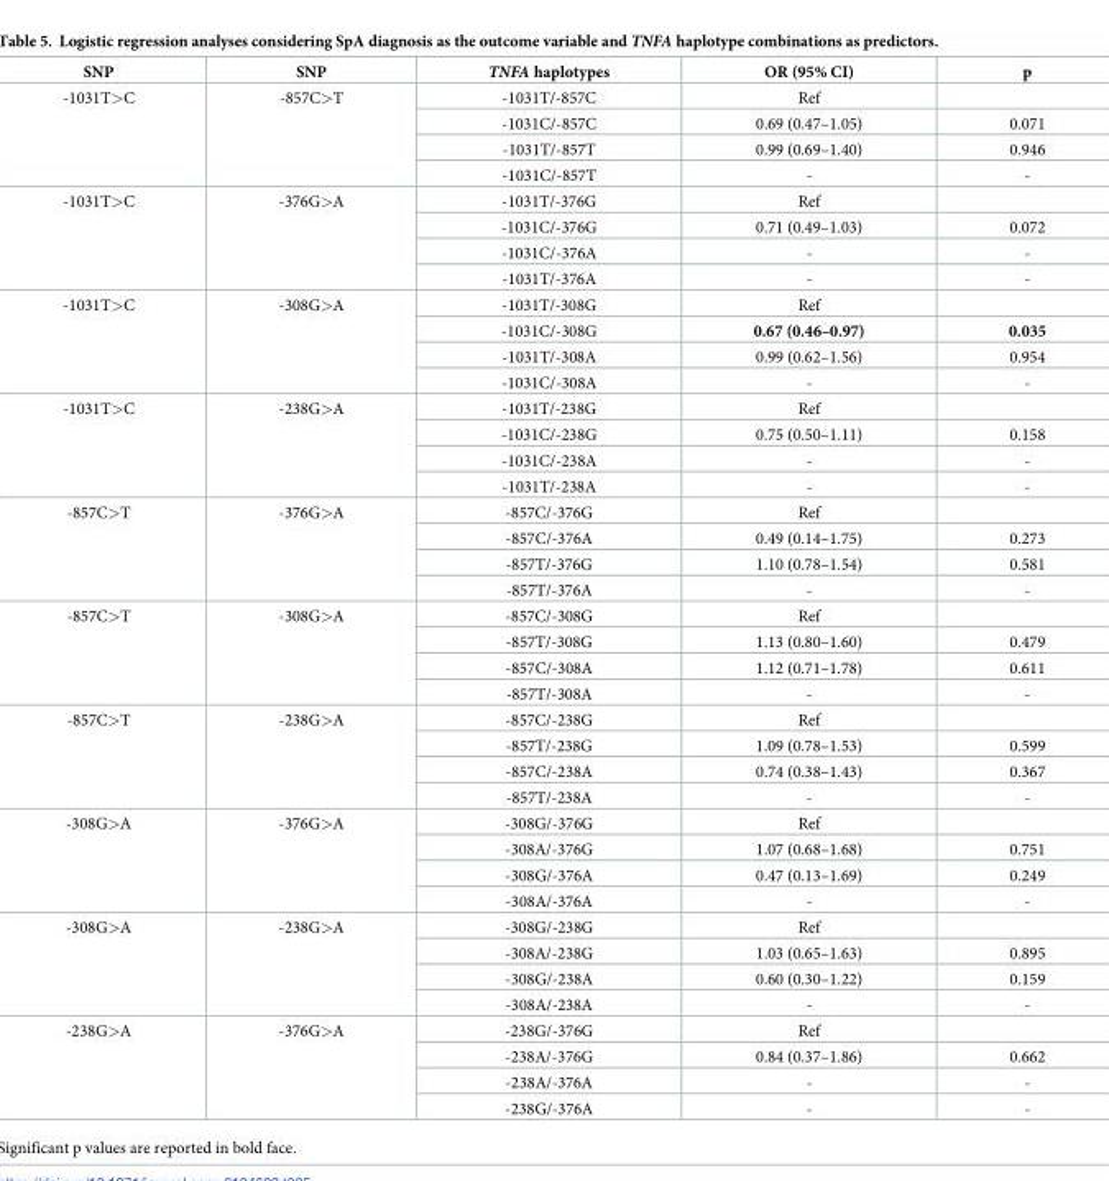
<table><thead><tr><td>SNP</td><td>SNP</td><td>TNFA haplotypes</td><td>OR (95% CI)</td><td>p</td></tr></thead><tbody><tr><td rowspan="4">-1031T&gt;C</td><td rowspan="4">-857C&gt;T</td><td>-1031T/-857C</td><td>Ref</td><td></td></tr><tr><td>-1031C/-857C</td><td>0.69 (0.47–1.05)</td><td>0.071</td></tr><tr><td>-1031T/-857T</td><td>0.99 (0.69–1.40)</td><td>0.946</td></tr><tr><td>-1031C/-857T</td><td>-</td><td>-</td></tr><tr><td rowspan="4">-1031T&gt;C</td><td rowspan="4">-376G&gt;A</td><td>-1031T/-376G</td><td>Ref</td><td></td></tr><tr><td>-1031C/-376G</td><td>0.71 (0.49–1.03)</td><td>0.072</td></tr><tr><td>-1031C/-376A</td><td>-</td><td>-</td></tr><tr><td>-1031T/-376A</td><td>-</td><td>-</td></tr><tr><td rowspan="4">-1031T&gt;C</td><td rowspan="4">-308G&gt;A</td><td>-1031T/-308G</td><td>Ref</td><td></td></tr><tr><td>-1031C/-308G</td><td>0.67 (0.46–0.97)</td><td>0.035</td></tr><tr><td>-1031T/-308A</td><td>0.99 (0.62–1.56)</td><td>0.954</td></tr><tr><td>-1031C/-308A</td><td>-</td><td>-</td></tr><tr><td rowspan="4">-1031T&gt;C</td><td rowspan="4">-238G&gt;A</td><td>-1031T/-238G</td><td>Ref</td><td></td></tr><tr><td>-1031C/-238G</td><td>0.75 (0.50–1.11)</td><td>0.158</td></tr><tr><td>-1031C/-238A</td><td>-</td><td>-</td></tr><tr><td>-1031T/-238A</td><td>-</td><td>-</td></tr><tr><td rowspan="4">-857C&gt;T</td><td rowspan="4">-376G&gt;A</td><td>-857C/-376G</td><td>Ref</td><td></td></tr><tr><td>-857C/-376A</td><td>0.49 (0.14–1.75)</td><td>0.273</td></tr><tr><td>-857T/-376G</td><td>1.10 (0.78–1.54)</td><td>0.581</td></tr><tr><td>-857T/-376A</td><td>-</td><td>-</td></tr><tr><td rowspan="4">-857C&gt;T</td><td rowspan="4">-308G&gt;A</td><td>-857C/-308G</td><td>Ref</td><td></td></tr><tr><td>-857T/-308G</td><td>1.13 (0.80–1.60)</td><td>0.479</td></tr><tr><td>-857C/-308A</td><td>1.12 (0.71–1.78)</td><td>0.611</td></tr><tr><td>-857T/-308A</td><td>-</td><td>-</td></tr><tr><td rowspan="4">-857C&gt;T</td><td rowspan="4">-238G&gt;A</td><td>-857C/-238G</td><td>Ref</td><td></td></tr><tr><td>-857T/-238G</td><td>1.09 (0.78–1.53)</td><td>0.599</td></tr><tr><td>-857C/-238A</td><td>0.74 (0.38–1.43)</td><td>0.367</td></tr><tr><td>-857T/-238A</td><td>-</td><td>-</td></tr><tr><td rowspan="4">-308G&gt;A</td><td rowspan="4">-376G&gt;A</td><td>-308G/-376G</td><td>Ref</td><td></td></tr><tr><td>-308A/-376G</td><td>1.07 (0.68–1.68)</td><td>0.751</td></tr><tr><td>-308G/-376A</td><td>0.47 (0.13–1.69)</td><td>0.249</td></tr><tr><td>-308A/-376A</td><td>-</td><td>-</td></tr><tr><td rowspan="4">-308G&gt;A</td><td rowspan="4">-238G&gt;A</td><td>-308G/-238G</td><td>Ref</td><td></td></tr><tr><td>-308A/-238G</td><td>1.03 (0.65–1.63)</td><td>0.895</td></tr><tr><td>-308G/-238A</td><td>0.60 (0.30–1.22)</td><td>0.159</td></tr><tr><td>-308A/-238A</td><td>-</td><td>-</td></tr><tr><td rowspan="4">-238G&gt;A</td><td rowspan="4">-376G&gt;A</td><td>-238G/-376G</td><td>Ref</td><td></td></tr><tr><td>-238A/-376G</td><td>0.84 (0.37–1.86)</td><td>0.662</td></tr><tr><td>-238A/-376A</td><td>-</td><td>-</td></tr><tr><td>-238G/-376A</td><td>-</td><td>-</td></tr></tbody></table>